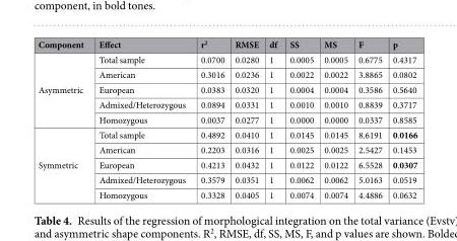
<table><thead><tr><td>Component</td><td>Effect</td><td>r<sup>2</sup></td><td>RMSE</td><td>df</td><td>SS</td><td>MS</td><td>F</td><td>p</td></tr></thead><tbody><tr><td rowspan="5">Asymmetric</td><td>Total sample</td><td>0.0700</td><td>0.0280</td><td>1</td><td>0.0005</td><td>0.0005</td><td>0.6775</td><td>0.4317</td></tr><tr><td>American</td><td>0.3016</td><td>0.0236</td><td>1</td><td>0.0022</td><td>0.0022</td><td>3.8865</td><td>0.0802</td></tr><tr><td>European</td><td>0.0383</td><td>0.0320</td><td>1</td><td>0.0004</td><td>0.0004</td><td>0.3586</td><td>0.5640</td></tr><tr><td>Admixed/Heterozygous</td><td>0.0894</td><td>0.0331</td><td>1</td><td>0.0010</td><td>0.0010</td><td>0.8839</td><td>0.3717</td></tr><tr><td>Homozygous</td><td>0.0037</td><td>0.0277</td><td>1</td><td>0.0000</td><td>0.0000</td><td>0.0337</td><td>0.8585</td></tr><tr><td rowspan="5">Symmetric</td><td>Total sample</td><td>0.4892</td><td>0.0410</td><td>1</td><td>0.0145</td><td>0.0145</td><td>8.6191</td><td>0.0166</td></tr><tr><td>American</td><td>0.2203</td><td>0.0316</td><td>1</td><td>0.0025</td><td>0.0025</td><td>2.5427</td><td>0.1453</td></tr><tr><td>European</td><td>0.4213</td><td>0.0432</td><td>1</td><td>0.0122</td><td>0.0122</td><td>6.5528</td><td>0.0307</td></tr><tr><td>Admixed/Heterozygous</td><td>0.3579</td><td>0.0351</td><td>1</td><td>0.0062</td><td>0.0062</td><td>5.0163</td><td>0.0519</td></tr><tr><td>Homozygous</td><td>0.3328</td><td>0.0405</td><td>1</td><td>0.0074</td><td>0.0074</td><td>4.4886</td><td>0.0632</td></tr></tbody></table>